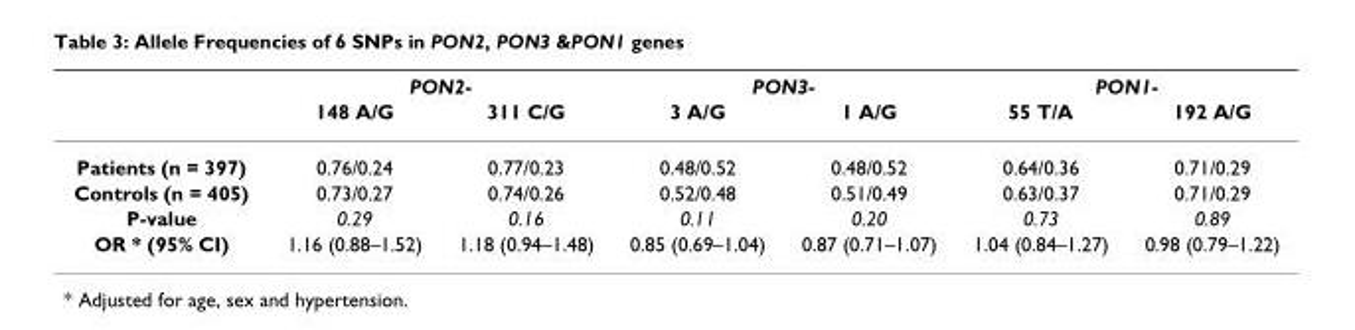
<table><thead><tr><td rowspan="2"></td><td colspan="2">PON2-</td><td colspan="2">PON3-</td><td colspan="2">PON1-</td></tr><tr><td>148 A/G</td><td>311 C/G</td><td>3 A/G</td><td>1 A/G</td><td>55 T/A</td><td>192 A/G</td></tr></thead><tbody><tr><td>Patients (n = 397)</td><td>0.76/0.24</td><td>0.77/0.23</td><td>0.48/0.52</td><td>0.48/0.52</td><td>0.64/0.36</td><td>0.71/0.29</td></tr><tr><td>Controls (n = 405)</td><td>0.73/0.27</td><td>0.74/0.26</td><td>0.52/0.48</td><td>0.51/0.49</td><td>0.63/0.37</td><td>0.71/0.29</td></tr><tr><td>P-value</td><td>0.29</td><td>0.16</td><td>0.11</td><td>0.20</td><td>0.73</td><td>0.89</td></tr><tr><td>OR * (95% CI)</td><td>1.16 (0.88–1.52)</td><td>1.18 (0.94–1.48)</td><td>0.85 (0.69–1.04)</td><td>0.87 (0.71–1.07)</td><td>1.04 (0.84–1.27)</td><td>0.98 (0.79–1.22)</td></tr></tbody></table>